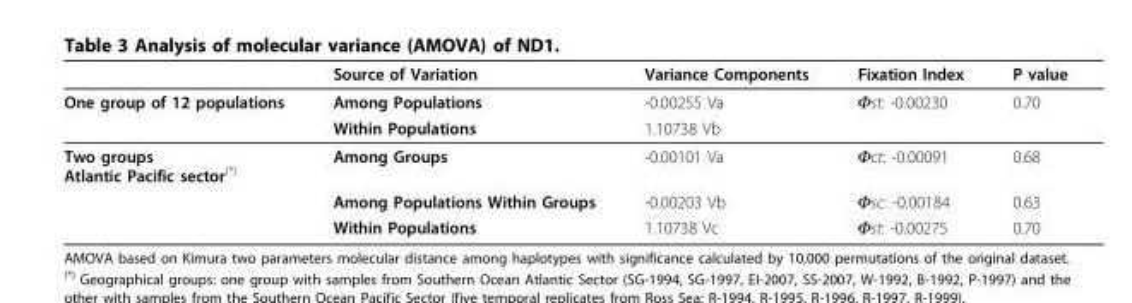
<table><thead><tr><td></td><td>Source of Variation</td><td>Variance Components</td><td>Fixation Index</td><td>P value</td></tr></thead><tbody><tr><td rowspan="2">One group of 12 populations</td><td>Among Populations</td><td>-0.00255 Va</td><td>Φst: -0.00230</td><td>0.70</td></tr><tr><td>Within Populations</td><td>1.10738 Vb</td><td></td><td></td></tr><tr><td rowspan="3">Two groups Atlantic Pacific sector<sup>(*)</sup></td><td>Among Groups</td><td>-0.00101 Va</td><td>Φct: -0.00091</td><td>0.68</td></tr><tr><td>Among Populations Within Groups</td><td>-0.00203 Vb</td><td>Φsc: -0.00184</td><td>0.63</td></tr><tr><td>Within Populations</td><td>1.10738 Vc</td><td>Φst: -0.00275</td><td>0.70</td></tr></tbody></table>